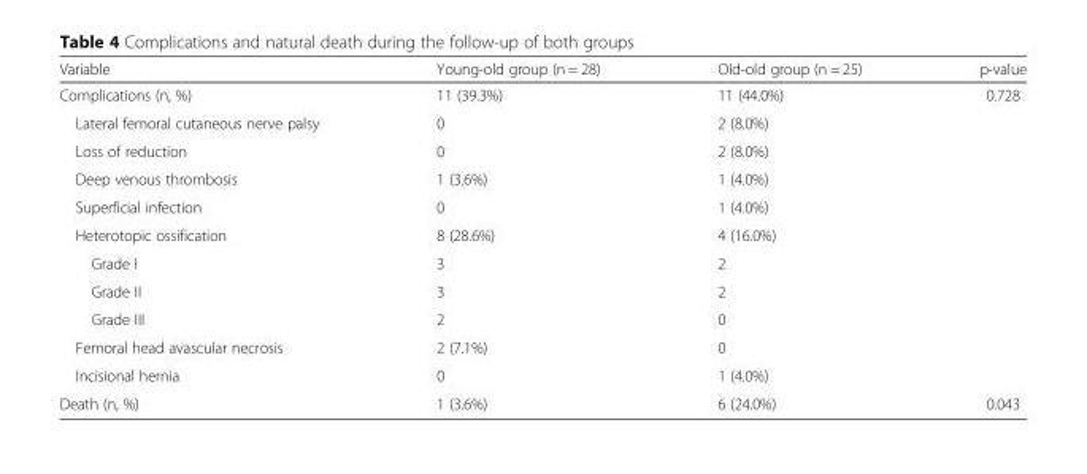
<table><thead><tr><td>Variable</td><td>Young-old group (n = 28)</td><td>Old-old group (n = 25)</td><td>p-value</td></tr></thead><tbody><tr><td>Complications (n, %)</td><td>11 (39.3%)</td><td>11 (44.0%)</td><td>0.728</td></tr><tr><td>Lateral femoral cutaneous nerve palsy</td><td>0</td><td>2 (8.0%)</td><td></td></tr><tr><td>Loss of reduction</td><td>0</td><td>2 (8.0%)</td><td></td></tr><tr><td>Deep venous thrombosis</td><td>1 (3.6%)</td><td>1 (4.0%)</td><td></td></tr><tr><td>Superficial infection</td><td>0</td><td>1 (4.0%)</td><td></td></tr><tr><td>Heterotopic ossification</td><td>8 (28.6%)</td><td>4 (16.0%)</td><td></td></tr><tr><td>Grade I</td><td>3</td><td>2</td><td></td></tr><tr><td>Grade II</td><td>3</td><td>2</td><td></td></tr><tr><td>Grade III</td><td>2</td><td>0</td><td></td></tr><tr><td>Femoral head avascular necrosis</td><td>2 (7.1%)</td><td>0</td><td></td></tr><tr><td>Incisional hernia</td><td>0</td><td>1 (4.0%)</td><td></td></tr><tr><td>Death (n, %)</td><td>1 (3.6%)</td><td>6 (24.0%)</td><td>0.043</td></tr></tbody></table>